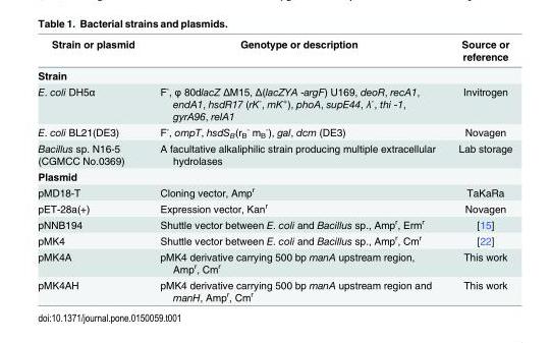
<table><thead><tr><td>Strain or plasmid</td><td>Genotype or description</td><td>Source or reference</td></tr></thead><tbody><tr><td colspan="3">Strain</td></tr><tr><td>E. coli DH5α</td><td>F<sup>-</sup>, φ 80dlacZ ΔM15, Δ(lacZYA -argF) U169, deoR, recA1, endA1, hsdR17 (rK<sup>-</sup>, mK<sup>+</sup>), phoA, supE44, λ<sup>-</sup>, thi -1, gyrA96, relA1</td><td>Invitrogen</td></tr><tr><td>E. coli BL21(DE3)</td><td>F<sup>-</sup>, ompT, hsdS<sub>B</sub>(r<sub>B</sub> <sup>-</sup> m<sub>B</sub> <sup>-</sup>), gal, dcm (DE3)</td><td>Novagen</td></tr><tr><td>Bacillus sp. N16-5 (CGMCC No.0369)</td><td>A facultative alkaliphilic strain producing multiple extracellular hydrolases</td><td>Lab storage</td></tr><tr><td colspan="3">Plasmid</td></tr><tr><td>pMD18-T</td><td>Cloning vector, Amp<sup>r</sup></td><td>TaKaRa</td></tr><tr><td>pET-28a(+)</td><td>Expression vector, Kan<sup>r</sup></td><td>Novagen</td></tr><tr><td>pNNB194</td><td>Shuttle vector between E. coli and Bacillus sp., Amp<sup>r</sup>, Erm<sup>r</sup></td><td>[15]</td></tr><tr><td>pMK4</td><td>Shuttle vector between E. coli and Bacillus sp., Amp<sup>r</sup>, Cm<sup>r</sup></td><td>[22]</td></tr><tr><td>pMK4A</td><td>pMK4 derivative carrying 500 bp manA upstream region, Amp<sup>r</sup>, Cm<sup>r</sup></td><td>This work</td></tr><tr><td>pMK4AH</td><td>pMK4 derivative carrying 500 bp manA upstream region and manH, Amp<sup>r</sup>, Cm<sup>r</sup></td><td>This work</td></tr></tbody></table>